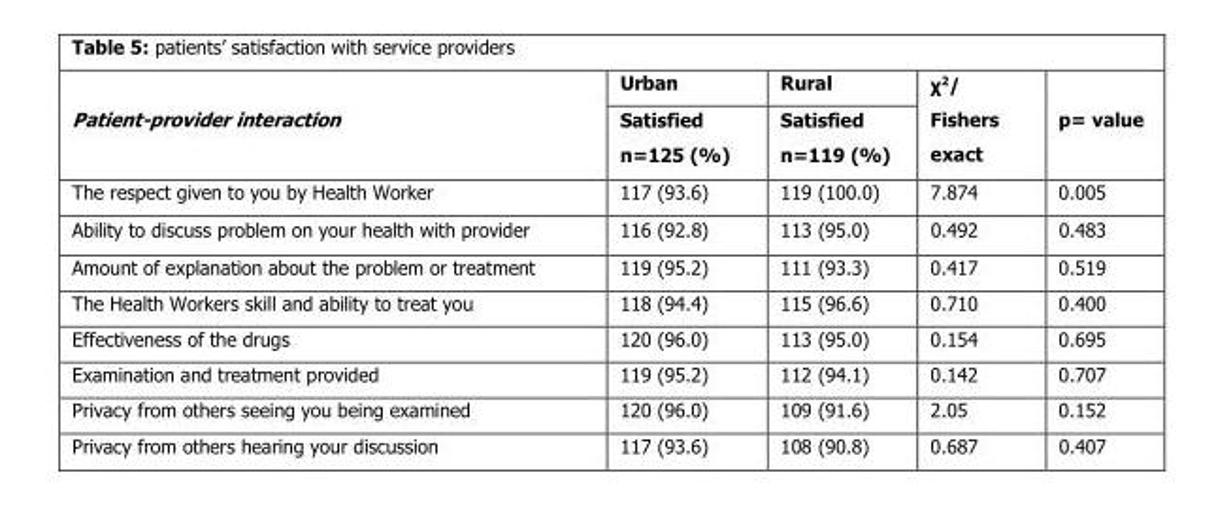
<table><thead><tr><td rowspan="2">Patient-provider interaction</td><td rowspan="2">Urban Satisfied n=125 (%)</td><td rowspan="2">Rural Satisfied n=119 (%)</td><td rowspan="2">χ<sup>2</sup>/ Fishers exact</td><td rowspan="2">p= value</td></tr><tr></tr></thead><tbody><tr><td>The respect given to you by Health Worker</td><td>117 (93.6)</td><td>119 (100.0)</td><td>7.874</td><td>0.005</td></tr><tr><td>Ability to discuss problem on your health with provider</td><td>116 (92.8)</td><td>113 (95.0)</td><td>0.492</td><td>0.483</td></tr><tr><td>Amount of explanation about the problem or treatment</td><td>119 (95.2)</td><td>111 (93.3)</td><td>0.417</td><td>0.519</td></tr><tr><td>The Health Workers skill and ability to treat you</td><td>118 (94.4)</td><td>115 (96.6)</td><td>0.710</td><td>0.400</td></tr><tr><td>Effectiveness of the drugs</td><td>120 (96.0)</td><td>113 (95.0)</td><td>0.154</td><td>0.695</td></tr><tr><td>Examination and treatment provided</td><td>119 (95.2)</td><td>112 (94.1)</td><td>0.142</td><td>0.707</td></tr><tr><td>Privacy from others seeing you being examined</td><td>120 (96.0)</td><td>109 (91.6)</td><td>2.05</td><td>0.152</td></tr><tr><td>Privacy from others hearing your discussion</td><td>117 (93.6)</td><td>108 (90.8)</td><td>0.687</td><td>0.407</td></tr></tbody></table>